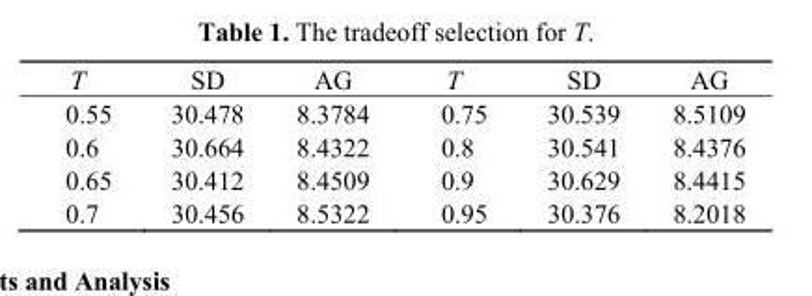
<table><thead><tr><td>T</td><td>SD</td><td>AG</td><td>T</td><td>SD</td><td>AG</td></tr></thead><tbody><tr><td>0.55</td><td>30.478</td><td>8.3784</td><td>0.75</td><td>30.539</td><td>8.5109</td></tr><tr><td>0.6</td><td>30.664</td><td>8.4322</td><td>0.8</td><td>30.541</td><td>8.4376</td></tr><tr><td>0.65</td><td>30.412</td><td>8.4509</td><td>0.9</td><td>30.629</td><td>8.4415</td></tr><tr><td>0.7</td><td>30.456</td><td>8.5322</td><td>0.95</td><td>30.376</td><td>8.2018</td></tr></tbody></table>